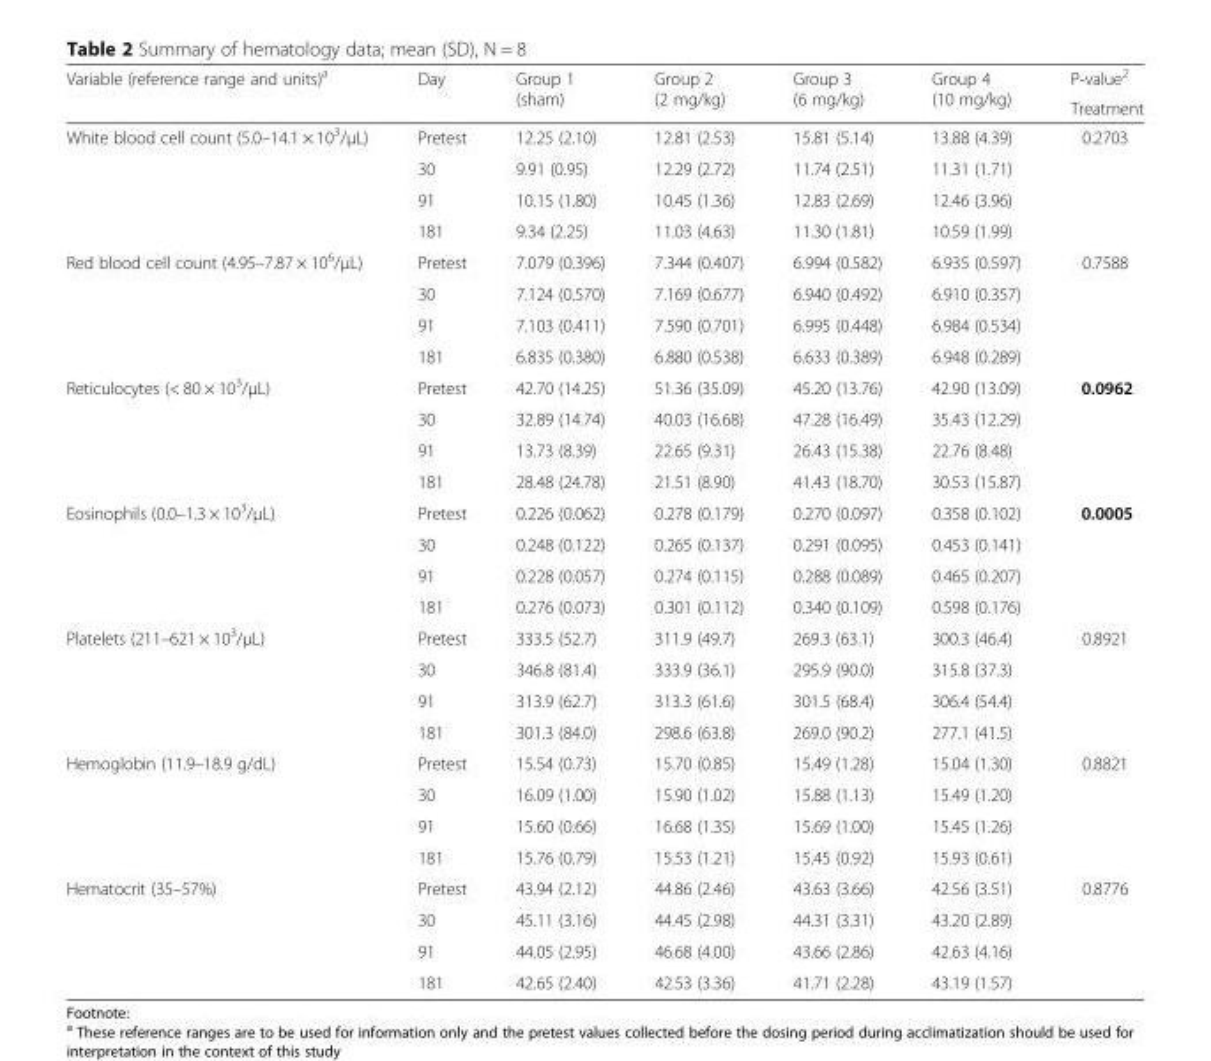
<table><thead><tr><td rowspan="2">Variable (reference range and units)<sup>a</sup></td><td rowspan="2">Day</td><td rowspan="2">Group 1 (sham)</td><td rowspan="2">Group 2 (2 mg/kg)</td><td rowspan="2">Group 3 (6 mg/kg)</td><td rowspan="2">Group 4 (10 mg/kg)</td><td rowspan="2">P-value<sup>2</sup> Treatment</td></tr><tr></tr></thead><tbody><tr><td rowspan="4">White blood cell count (5.0–14.1 × 10<sup>3</sup>/μL)</td><td>Pretest</td><td>12.25 (2.10)</td><td>12.81 (2.53)</td><td>15.81 (5.14)</td><td>13.88 (4.39)</td><td rowspan="4">0.2703</td></tr><tr><td>30</td><td>9.91 (0.95)</td><td>12.29 (2.72)</td><td>11.74 (2.51)</td><td>11.31 (1.71)</td></tr><tr><td>91</td><td>10.15 (1.80)</td><td>10.45 (1.36)</td><td>12.83 (2.69)</td><td>12.46 (3.96)</td></tr><tr><td>181</td><td>9.34 (2.25)</td><td>11.03 (4.63)</td><td>11.30 (1.81)</td><td>10.59 (1.99)</td></tr><tr><td rowspan="4">Red blood cell count (4.95–7.87 × 10<sup>6</sup>/μL)</td><td>Pretest</td><td>7.079 (0.396)</td><td>7.344 (0.407)</td><td>6.994 (0.582)</td><td>6.935 (0.597)</td><td rowspan="4">0.7588</td></tr><tr><td>30</td><td>7.124 (0.570)</td><td>7.169 (0.677)</td><td>6.940 (0.492)</td><td>6.910 (0.357)</td></tr><tr><td>91</td><td>7.103 (0.411)</td><td>7.590 (0.701)</td><td>6.995 (0.448)</td><td>6.984 (0.534)</td></tr><tr><td>181</td><td>6.835 (0.380)</td><td>6.880 (0.538)</td><td>6.633 (0.389)</td><td>6.948 (0.289)</td></tr><tr><td rowspan="4">Reticulocytes (&lt; 80 × 10<sup>3</sup>/μL)</td><td>Pretest</td><td>42.70 (14.25)</td><td>51.36 (35.09)</td><td>45.20 (13.76)</td><td>42.90 (13.09)</td><td rowspan="4">0.0962</td></tr><tr><td>30</td><td>32.89 (14.74)</td><td>40.03 (16.68)</td><td>47.28 (16.49)</td><td>35.43 (12.29)</td></tr><tr><td>91</td><td>13.73 (8.39)</td><td>22.65 (9.31)</td><td>26.43 (15.38)</td><td>22.76 (8.48)</td></tr><tr><td>181</td><td>28.48 (24.78)</td><td>21.51 (8.90)</td><td>41.43 (18.70)</td><td>30.53 (15.87)</td></tr><tr><td rowspan="4">Eosinophils (0.0–1.3 × 10<sup>3</sup>/μL)</td><td>Pretest</td><td>0.226 (0.062)</td><td>0.278 (0.179)</td><td>0.270 (0.097)</td><td>0.358 (0.102)</td><td rowspan="4">0.0005</td></tr><tr><td>30</td><td>0.248 (0.122)</td><td>0.265 (0.137)</td><td>0.291 (0.095)</td><td>0.453 (0.141)</td></tr><tr><td>91</td><td>0.228 (0.057)</td><td>0.274 (0.115)</td><td>0.288 (0.089)</td><td>0.465 (0.207)</td></tr><tr><td>181</td><td>0.276 (0.073)</td><td>0.301 (0.112)</td><td>0.340 (0.109)</td><td>0.598 (0.176)</td></tr><tr><td rowspan="4">Platelets (211–621 × 10<sup>3</sup>/μL)</td><td>Pretest</td><td>333.5 (52.7)</td><td>311.9 (49.7)</td><td>269.3 (63.1)</td><td>300.3 (46.4)</td><td rowspan="4">0.8921</td></tr><tr><td>30</td><td>346.8 (81.4)</td><td>333.9 (36.1)</td><td>295.9 (90.0)</td><td>315.8 (37.3)</td></tr><tr><td>91</td><td>313.9 (62.7)</td><td>313.3 (61.6)</td><td>301.5 (68.4)</td><td>306.4 (54.4)</td></tr><tr><td>181</td><td>301.3 (84.0)</td><td>298.6 (63.8)</td><td>269.0 (90.2)</td><td>277.1 (41.5)</td></tr><tr><td rowspan="4">Hemoglobin (11.9–18.9 g/dL)</td><td>Pretest</td><td>15.54 (0.73)</td><td>15.70 (0.85)</td><td>15.49 (1.28)</td><td>15.04 (1.30)</td><td rowspan="4">0.8821</td></tr><tr><td>30</td><td>16.09 (1.00)</td><td>15.90 (1.02)</td><td>15.88 (1.13)</td><td>15.49 (1.20)</td></tr><tr><td>91</td><td>15.60 (0.66)</td><td>16.68 (1.35)</td><td>15.69 (1.00)</td><td>15.45 (1.26)</td></tr><tr><td>181</td><td>15.76 (0.79)</td><td>15.53 (1.21)</td><td>15.45 (0.92)</td><td>15.93 (0.61)</td></tr><tr><td rowspan="4">Hematocrit (35–57%)</td><td>Pretest</td><td>43.94 (2.12)</td><td>44.86 (2.46)</td><td>43.63 (3.66)</td><td>42.56 (3.51)</td><td rowspan="4">0.8776</td></tr><tr><td>30</td><td>45.11 (3.16)</td><td>44.45 (2.98)</td><td>44.31 (3.31)</td><td>43.20 (2.89)</td></tr><tr><td>91</td><td>44.05 (2.95)</td><td>46.68 (4.00)</td><td>43.66 (2.86)</td><td>42.63 (4.16)</td></tr><tr><td>181</td><td>42.65 (2.40)</td><td>42.53 (3.36)</td><td>41.71 (2.28)</td><td>43.19 (1.57)</td></tr></tbody></table>